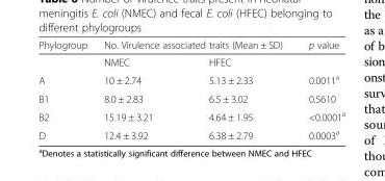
<table><thead><tr><td rowspan="2">Phylogroup</td><td colspan="2">No. Virulence associated traits (Mean ± SD)</td><td rowspan="2">p value</td></tr><tr><td>NMEC</td><td>HFEC</td></tr></thead><tbody><tr><td>A</td><td>10 ± 2.74</td><td>5.13 ± 2.33</td><td>0.0011<sup>a</sup></td></tr><tr><td>B1</td><td>8.0 ± 2.83</td><td>6.5 ± 3.02</td><td>0.5610</td></tr><tr><td>B2</td><td>15.19 ± 3.21</td><td>4.64 ± 1.95</td><td>&lt;0.0001<sup>a</sup></td></tr><tr><td>D</td><td>12.4 ± 3.92</td><td>6.38 ± 2.79</td><td>0.0003<sup>a</sup></td></tr></tbody></table>